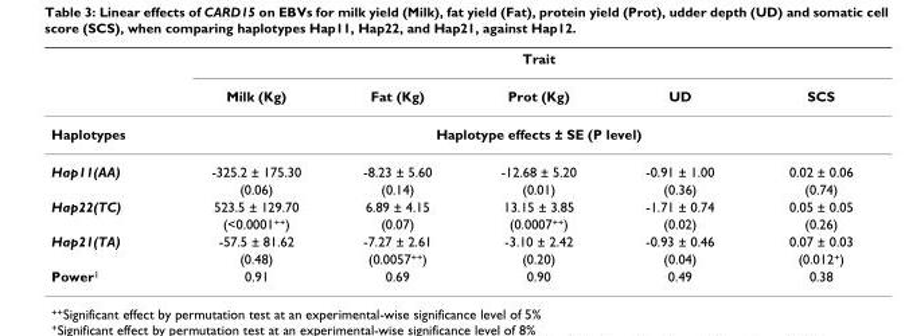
<table><thead><tr><td rowspan="2"></td><td colspan="5">Trait</td></tr><tr><td>Milk (Kg)</td><td>Fat (Kg)</td><td>Prot (Kg)</td><td>UD</td><td>SCS</td></tr></thead><tbody><tr><td>Haplotypes</td><td colspan="5">Haplotype effects ± SE (P level)</td></tr><tr><td rowspan="2">Hap11(AA)</td><td>-325.2 ± 175.30</td><td>-8.23 ± 5.60</td><td>-12.68 ± 5.20</td><td>-0.91 ± 1.00</td><td>0.02 ± 0.06</td></tr><tr><td>(0.06)</td><td>(0.14)</td><td>(0.01)</td><td>(0.36)</td><td>(0.74)</td></tr><tr><td rowspan="2">Hap22(TC)</td><td>523.5 ± 129.70</td><td>6.89 ± 4.15</td><td>13.15 ± 3.85</td><td>-1.71 ± 0.74</td><td>0.05 ± 0.05</td></tr><tr><td>(&lt;0.0001<sup>++</sup>)</td><td>(0.07)</td><td>(0.0007<sup>++</sup>)</td><td>(0.02)</td><td>(0.26)</td></tr><tr><td rowspan="2">Hap21(TA)</td><td>-57.5 ± 81.62</td><td>-7.27 ± 2.61</td><td>-3.10 ± 2.42</td><td>-0.93 ± 0.46</td><td>0.07 ± 0.03</td></tr><tr><td>(0.48)</td><td>(0.0057<sup>++</sup>)</td><td>(0.20)</td><td>(0.04)</td><td>(0.012<sup>+</sup>)</td></tr><tr><td>Power<sup>1</sup></td><td>0.91</td><td>0.69</td><td>0.90</td><td>0.49</td><td>0.38</td></tr></tbody></table>